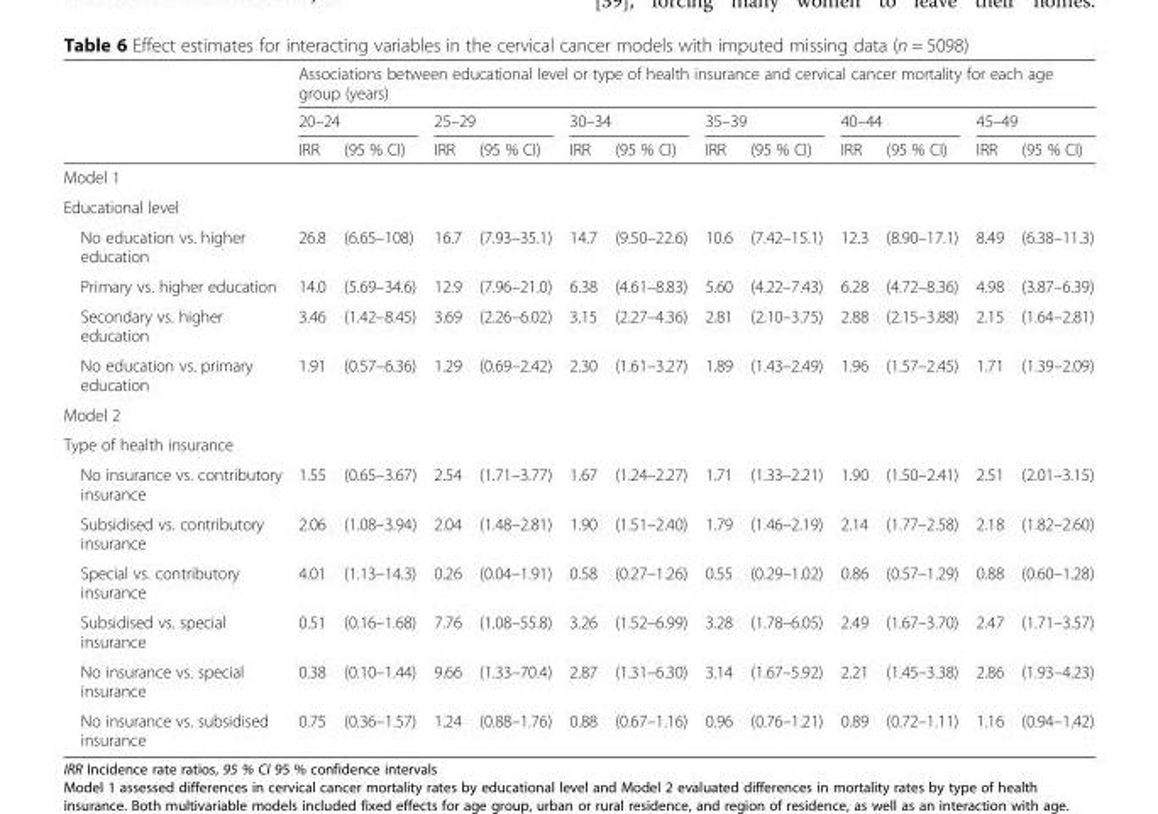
<table><thead><tr><td rowspan="3"></td><td colspan="12">Associations between educational level or type of health insurance and cervical cancer mortality for each age group (years)</td></tr><tr><td colspan="2">20–24</td><td colspan="2">25–29</td><td colspan="2">30–34</td><td colspan="2">35–39</td><td colspan="2">40–44</td><td colspan="2">45–49</td></tr><tr><td>IRR</td><td>(95 % CI)</td><td>IRR</td><td>(95 % CI)</td><td>IRR</td><td>(95 % CI)</td><td>IRR</td><td>(95 % CI)</td><td>IRR</td><td>(95 % CI)</td><td>IRR</td><td>(95 % CI)</td></tr></thead><tbody><tr><td>Model 1</td><td rowspan="2" colspan="12"></td></tr><tr><td>Educational level</td></tr><tr><td>No education vs. higher education</td><td>26.8</td><td>(6.65–108)</td><td>16.7</td><td>(7.93–35.1)</td><td>14.7</td><td>(9.50–22.6)</td><td>10.6</td><td>(7.42–15.1)</td><td>12.3</td><td>(8.90–17.1)</td><td>8.49</td><td>(6.38–11.3)</td></tr><tr><td>Primary vs. higher education</td><td>14.0</td><td>(5.69–34.6)</td><td>12.9</td><td>(7.96–21.0)</td><td>6.38</td><td>(4.61–8.83)</td><td>5.60</td><td>(4.22–7.43)</td><td>6.28</td><td>(4.72–8.36)</td><td>4.98</td><td>(3.87–6.39)</td></tr><tr><td>Secondary vs. higher education</td><td>3.46</td><td>(1.42–8.45)</td><td>3.69</td><td>(2.26–6.02)</td><td>3.15</td><td>(2.27–4.36)</td><td>2.81</td><td>(2.10–3.75)</td><td>2.88</td><td>(2.15–3.88)</td><td>2.15</td><td>(1.64–2.81)</td></tr><tr><td>No education vs. primary education</td><td>1.91</td><td>(0.57–6.36)</td><td>1.29</td><td>(0.69–2.42)</td><td>2.30</td><td>(1.61–3.27)</td><td>1.89</td><td>(1.43–2.49)</td><td>1.96</td><td>(1.57–2.45)</td><td>1.71</td><td>(1.39–2.09)</td></tr><tr><td>Model 2</td><td rowspan="2" colspan="12"></td></tr><tr><td>Type of health insurance</td></tr><tr><td>No insurance vs. contributory insurance</td><td>1.55</td><td>(0.65–3.67)</td><td>2.54</td><td>(1.71–3.77)</td><td>1.67</td><td>(1.24–2.27)</td><td>1.71</td><td>(1.33–2.21)</td><td>1.90</td><td>(1.50–2.41)</td><td>2.51</td><td>(2.01–3.15)</td></tr><tr><td>Subsidised vs. contributory insurance</td><td>2.06</td><td>(1.08–3.94)</td><td>2.04</td><td>(1.48–2.81)</td><td>1.90</td><td>(1.51–2.40)</td><td>1.79</td><td>(1.46–2.19)</td><td>2.14</td><td>(1.77–2.58)</td><td>2.18</td><td>(1.82–2.60)</td></tr><tr><td>Special vs. contributory insurance</td><td>4.01</td><td>(1.13–14.3)</td><td>0.26</td><td>(0.04–1.91)</td><td>0.58</td><td>(0.27–1.26)</td><td>0.55</td><td>(0.29–1.02)</td><td>0.86</td><td>(0.57–1.29)</td><td>0.88</td><td>(0.60–1.28)</td></tr><tr><td>Subsidised vs. special insurance</td><td>0.51</td><td>(0.16–1.68)</td><td>7.76</td><td>(1.08–55.8)</td><td>3.26</td><td>(1.52–6.99)</td><td>3.28</td><td>(1.78–6.05)</td><td>2.49</td><td>(1.67–3.70)</td><td>2.47</td><td>(1.71–3.57)</td></tr><tr><td>No insurance vs. special insurance</td><td>0.38</td><td>(0.10–1.44)</td><td>9.66</td><td>(1.33–70.4)</td><td>2.87</td><td>(1.31–6.30)</td><td>3.14</td><td>(1.67–5.92)</td><td>2.21</td><td>(1.45–3.38)</td><td>2.86</td><td>(1.93–4.23)</td></tr><tr><td>No insurance vs. subsidised insurance</td><td>0.75</td><td>(0.36–1.57)</td><td>1.24</td><td>(0.88–1.76)</td><td>0.88</td><td>(0.67–1.16)</td><td>0.96</td><td>(0.76–1.21)</td><td>0.89</td><td>(0.72–1.11)</td><td>1.16</td><td>(0.94–1.42)</td></tr></tbody></table>